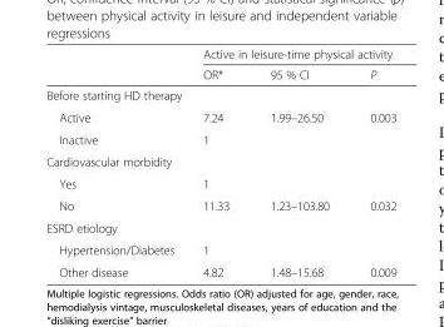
<table><thead><tr><td rowspan="2"></td><td colspan="3">Active in leisure-time physical activity</td></tr><tr><td>OR*</td><td>95 % CI</td><td>P</td></tr></thead><tbody><tr><td colspan="4">Before starting HD therapy</td></tr><tr><td>Active</td><td>7.24</td><td>1.99–26.50</td><td>0.003</td></tr><tr><td>Inactive</td><td>1</td><td></td><td></td></tr><tr><td colspan="4">Cardiovascular morbidity</td></tr><tr><td>Yes</td><td>1</td><td></td><td></td></tr><tr><td>No</td><td>11.33</td><td>1.23–103.80</td><td>0.032</td></tr><tr><td colspan="4">ESRD etiology</td></tr><tr><td>Hypertension/Diabetes</td><td>1</td><td></td><td></td></tr><tr><td>Other disease</td><td>4.82</td><td>1.48–15.68</td><td>0.009</td></tr></tbody></table>